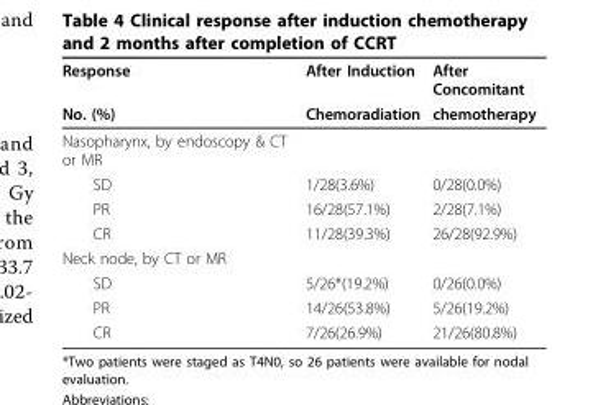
<table><thead><tr><td rowspan="2">Response No. (%)</td><td rowspan="2">After Induction Chemoradiation</td><td rowspan="2">After Concomitant chemotherapy</td></tr><tr></tr></thead><tbody><tr><td colspan="3">Nasopharynx, by endoscopy &amp; CT or MR</td></tr><tr><td>SD</td><td>1/28(3.6%)</td><td>0/28(0.0%)</td></tr><tr><td>PR</td><td>16/28(57.1%)</td><td>2/28(7.1%)</td></tr><tr><td>CR</td><td>11/28(39.3%)</td><td>26/28(92.9%)</td></tr><tr><td colspan="3">Neck node, by CT or MR</td></tr><tr><td>SD</td><td>5/26*(19.2%)</td><td>0/26(0.0%)</td></tr><tr><td>PR</td><td>14/26(53.8%)</td><td>5/26(19.2%)</td></tr><tr><td>CR</td><td>7/26(26.9%)</td><td>21/26(80.8%)</td></tr></tbody></table>